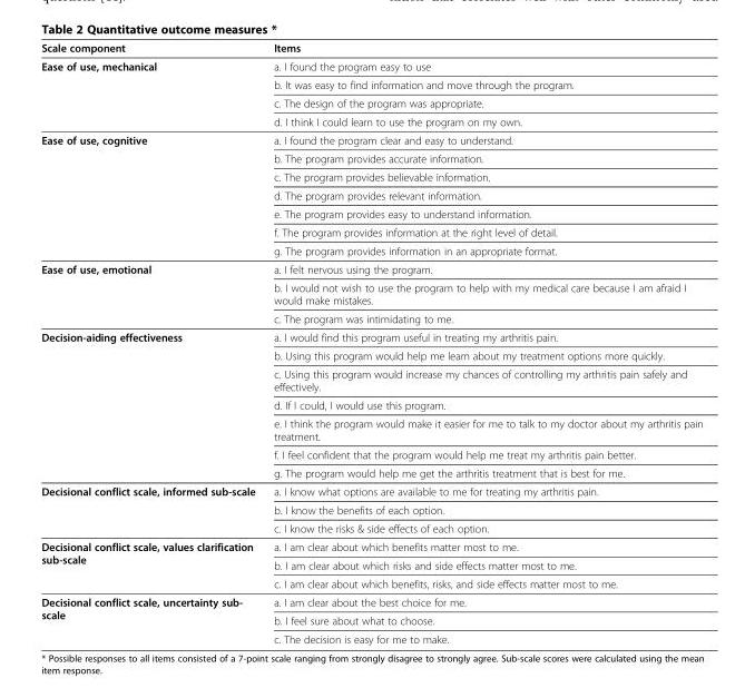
<table><thead><tr><td>Scale component</td><td>Items</td></tr></thead><tbody><tr><td rowspan="4">Ease of use, mechanical</td><td>a. I found the program easy to use</td></tr><tr><td>b. It was easy to find information and move through the program.</td></tr><tr><td>c. The design of the program was appropriate.</td></tr><tr><td>d. I think I could learn to use the program on my own.</td></tr><tr><td rowspan="7">Ease of use, cognitive</td><td>a. I found the program clear and easy to understand.</td></tr><tr><td>b. The program provides accurate information.</td></tr><tr><td>c. The program provides believable information.</td></tr><tr><td>d. The program provides relevant information.</td></tr><tr><td>e. The program provides easy to understand information.</td></tr><tr><td>f. The program provides information at the right level of detail.</td></tr><tr><td>g. The program provides information in an appropriate format.</td></tr><tr><td rowspan="3">Ease of use, emotional</td><td>a. I felt nervous using the program.</td></tr><tr><td>b. I would not wish to use the program to help with my medical care because I am afraid I would make mistakes.</td></tr><tr><td>c. The program was intimidating to me.</td></tr><tr><td rowspan="7">Decision-aiding effectiveness</td><td>a. I would find this program useful in treating my arthritis pain.</td></tr><tr><td>b. Using this program would help me learn about my treatment options more quickly.</td></tr><tr><td>c. Using this program would increase my chances of controlling my arthritis pain safely and effectively.</td></tr><tr><td>d. If I could, I would use this program.</td></tr><tr><td>e. I think the program would make it easier for me to talk to my doctor about my arthritis pain treatment.</td></tr><tr><td>f. I feel confident that the program would help me treat my arthritis pain better.</td></tr><tr><td>g. The program would help me get the arthritis treatment that is best for me.</td></tr><tr><td rowspan="3">Decisional conflict scale, informed sub-scale</td><td>a. I know what options are available to me for treating my arthritis pain.</td></tr><tr><td>b. I know the benefits of each option.</td></tr><tr><td>c. I know the risks &amp; side effects of each option.</td></tr><tr><td rowspan="3">Decisional conflict scale, values clarification sub-scale</td><td>a. I am clear about which benefits matter most to me.</td></tr><tr><td>b. I am clear about which risks and side effects matter most to me.</td></tr><tr><td>c. I am clear about which benefits, risks, and side effects matter most to me.</td></tr><tr><td rowspan="3">Decisional conflict scale, uncertainty sub- scale</td><td>a. I am clear about the best choice for me.</td></tr><tr><td>b. I feel sure about what to choose.</td></tr><tr><td>c. The decision is easy for me to make.</td></tr></tbody></table>